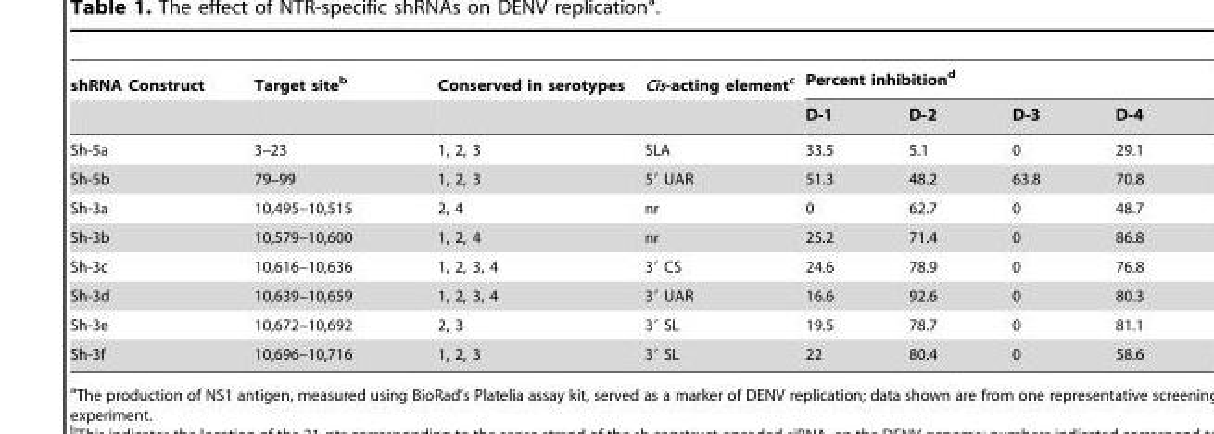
<table><thead><tr><td rowspan="2">shRNA Construct</td><td rowspan="2">Target site<sup>b</sup></td><td rowspan="2">Conserved in serotypes</td><td rowspan="2">Cis-acting element<sup>c</sup></td><td colspan="4">Percent inhibition<sup>d</sup></td></tr><tr><td>D-1</td><td>D-2</td><td>D-3</td><td>D-4</td></tr></thead><tbody><tr><td>Sh-5a</td><td>3–23</td><td>1, 2, 3</td><td>SLA</td><td>33.5</td><td>5.1</td><td>0</td><td>29.1</td></tr><tr><td>Sh-5b</td><td>79–99</td><td>1, 2, 3</td><td>5′ UAR</td><td>51.3</td><td>48.2</td><td>63.8</td><td>70.8</td></tr><tr><td>Sh-3a</td><td>10,495–10,515</td><td>2, 4</td><td>nr</td><td>0</td><td>62.7</td><td>0</td><td>48.7</td></tr><tr><td>Sh-3b</td><td>10,579–10,600</td><td>1, 2, 4</td><td>nr</td><td>25.2</td><td>71.4</td><td>0</td><td>86.8</td></tr><tr><td>Sh-3c</td><td>10,616–10,636</td><td>1, 2, 3, 4</td><td>3′ CS</td><td>24.6</td><td>78.9</td><td>0</td><td>76.8</td></tr><tr><td>Sh-3d</td><td>10,639–10,659</td><td>1, 2, 3, 4</td><td>3′ UAR</td><td>16.6</td><td>92.6</td><td>0</td><td>80.3</td></tr><tr><td>Sh-3e</td><td>10,672–10,692</td><td>2, 3</td><td>3′ SL</td><td>19.5</td><td>78.7</td><td>0</td><td>81.1</td></tr><tr><td>Sh-3f</td><td>10,696–10,716</td><td>1, 2, 3</td><td>3′ SL</td><td>22</td><td>80.4</td><td>0</td><td>58.6</td></tr></tbody></table>